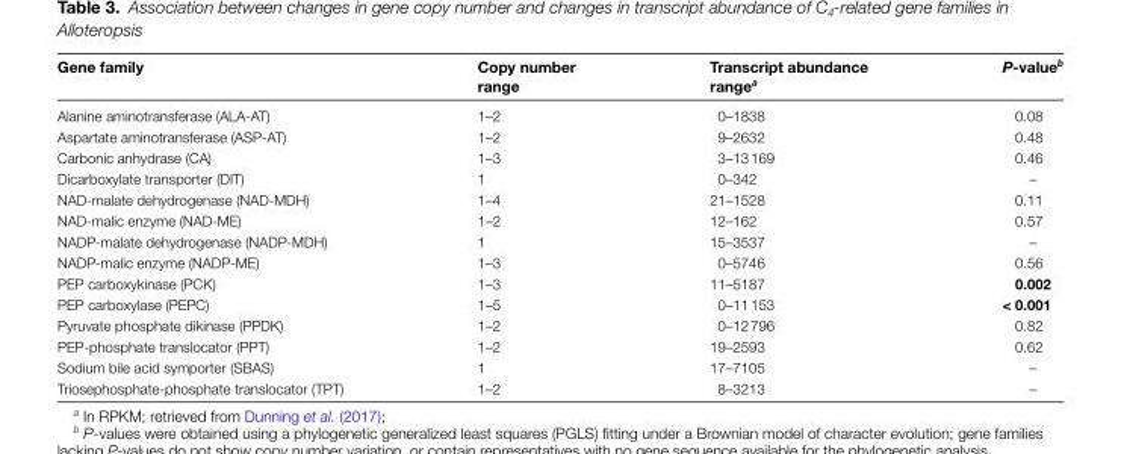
<table><thead><tr><td>Gene family</td><td>Copy number range</td><td>Transcript abundance range<sup>a</sup></td><td>P-value<sup>b</sup></td></tr></thead><tbody><tr><td>Alanine aminotransferase (ALA-AT)</td><td>1–2</td><td>0–1838</td><td>0.08</td></tr><tr><td>Aspartate aminotransferase (ASP-AT)</td><td>1–2</td><td>9–2632</td><td>0.48</td></tr><tr><td>Carbonic anhydrase (CA)</td><td>1–3</td><td>3–13 169</td><td>0.46</td></tr><tr><td>Dicarboxylate transporter (DIT)</td><td>1</td><td>0–342</td><td>–</td></tr><tr><td>NAD-malate dehydrogenase (NAD-MDH)</td><td>1–4</td><td>21–1528</td><td>0.11</td></tr><tr><td>NAD-malic enzyme (NAD-ME)</td><td>1–2</td><td>12–162</td><td>0.57</td></tr><tr><td>NADP-malate dehydrogenase (NADP-MDH)</td><td>1</td><td>15–3537</td><td>–</td></tr><tr><td>NADP-malic enzyme (NADP-ME)</td><td>1–3</td><td>0–5746</td><td>0.56</td></tr><tr><td>PEP carboxykinase (PCK)</td><td>1–3</td><td>11–5187</td><td>0.002</td></tr><tr><td>PEP carboxylase (PEPC)</td><td>1–5</td><td>0–11 153</td><td>&lt; 0.001</td></tr><tr><td>Pyruvate phosphate dikinase (PPDK)</td><td>1–2</td><td>0–12 796</td><td>0.82</td></tr><tr><td>PEP-phosphate translocator (PPT)</td><td>1–2</td><td>19–2593</td><td>0.62</td></tr><tr><td>Sodium bile acid symporter (SBAS)</td><td>1</td><td>17–7105</td><td>–</td></tr><tr><td>Triosephosphate-phosphate translocator (TPT)</td><td>1–2</td><td>8–3213</td><td>–</td></tr></tbody></table>